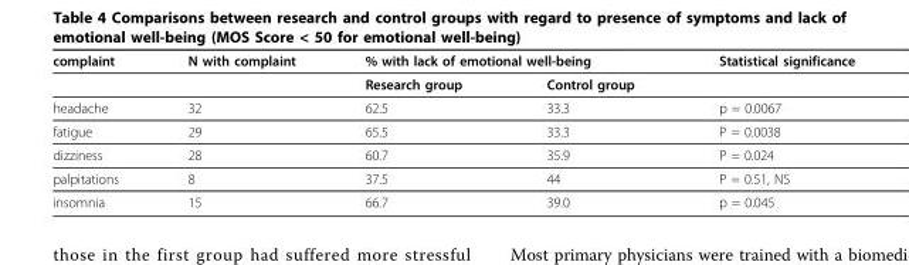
<table><thead><tr><td rowspan="2">complaint</td><td rowspan="2">N with complaint</td><td colspan="2">% with lack of emotional well-being</td><td rowspan="2">Statistical significance</td></tr><tr><td>Research group</td><td>Control group</td></tr></thead><tbody><tr><td>headache</td><td>32</td><td>62.5</td><td>33.3</td><td>p = 0.0067</td></tr><tr><td>fatigue</td><td>29</td><td>65.5</td><td>33.3</td><td>P = 0.0038</td></tr><tr><td>dizziness</td><td>28</td><td>60.7</td><td>35.9</td><td>P = 0.024</td></tr><tr><td>palpitations</td><td>8</td><td>37.5</td><td>44</td><td>P = 0.51, NS</td></tr><tr><td>insomnia</td><td>15</td><td>66.7</td><td>39.0</td><td>p = 0.045</td></tr></tbody></table>